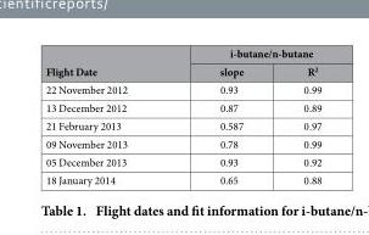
<table><thead><tr><td rowspan="2">Flight Date</td><td colspan="2">i-butane/n-butane</td></tr><tr><td>slope</td><td>R<sup>2</sup></td></tr></thead><tbody><tr><td>22 November 2012</td><td>0.93</td><td>0.99</td></tr><tr><td>13 December 2012</td><td>0.87</td><td>0.89</td></tr><tr><td>21 February 2013</td><td>0.587</td><td>0.97</td></tr><tr><td>09 November 2013</td><td>0.78</td><td>0.99</td></tr><tr><td>05 December 2013</td><td>0.93</td><td>0.92</td></tr><tr><td>18 January 2014</td><td>0.65</td><td>0.88</td></tr></tbody></table>